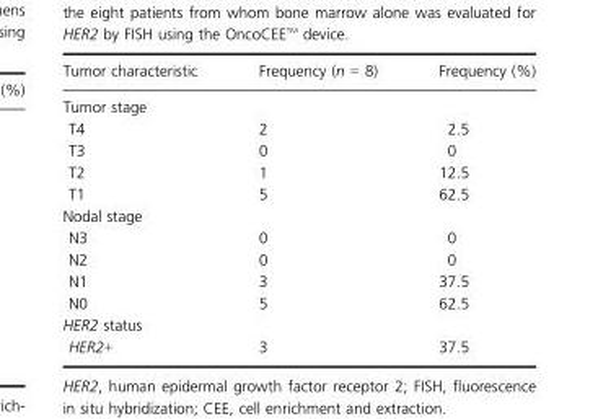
<table><thead><tr><td>Tumor characteristic</td><td>Frequency (n = 8)</td><td>Frequency (%)</td></tr></thead><tbody><tr><td colspan="3">Tumor stage</td></tr><tr><td>T4</td><td>2</td><td>2.5</td></tr><tr><td>T3</td><td>0</td><td>0</td></tr><tr><td>T2</td><td>1</td><td>12.5</td></tr><tr><td>T1</td><td>5</td><td>62.5</td></tr><tr><td colspan="3">Nodal stage</td></tr><tr><td>N3</td><td>0</td><td>0</td></tr><tr><td>N2</td><td>0</td><td>0</td></tr><tr><td>N1</td><td>3</td><td>37.5</td></tr><tr><td>N0</td><td>5</td><td>62.5</td></tr><tr><td colspan="3">HER2 status</td></tr><tr><td>HER2+</td><td>3</td><td>37.5</td></tr></tbody></table>